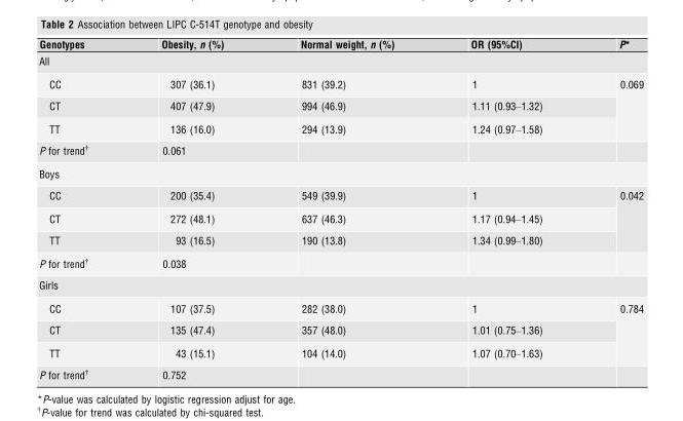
<table><thead><tr><td>Genotypes</td><td>Obesity, n (%)</td><td>Normal weight, n (%)</td><td>OR (95%CI)</td><td>P*</td></tr></thead><tbody><tr><td colspan="5">All</td></tr><tr><td>CC</td><td>307 (36.1)</td><td>831 (39.2)</td><td>1</td><td rowspan="3">0.069</td></tr><tr><td>CT</td><td>407 (47.9)</td><td>994 (46.9)</td><td>1.11 (0.93–1.32)</td></tr><tr><td>TT</td><td>136 (16.0)</td><td>294 (13.9)</td><td>1.24 (0.97–1.58)</td></tr><tr><td>P for trend†</td><td>0.061</td><td></td><td></td><td></td></tr><tr><td colspan="5">Boys</td></tr><tr><td>CC</td><td>200 (35.4)</td><td>549 (39.9)</td><td>1</td><td rowspan="3">0.042</td></tr><tr><td>CT</td><td>272 (48.1)</td><td>637 (46.3)</td><td>1.17 (0.94–1.45)</td></tr><tr><td>TT</td><td>93 (16.5)</td><td>190 (13.8)</td><td>1.34 (0.99–1.80)</td></tr><tr><td>P for trend†</td><td>0.038</td><td></td><td></td><td></td></tr><tr><td colspan="5">Girls</td></tr><tr><td>CC</td><td>107 (37.5)</td><td>282 (38.0)</td><td>1</td><td rowspan="3">0.784</td></tr><tr><td>CT</td><td>135 (47.4)</td><td>357 (48.0)</td><td>1.01 (0.75–1.36)</td></tr><tr><td>TT</td><td>43 (15.1)</td><td>104 (14.0)</td><td>1.07 (0.70–1.63)</td></tr><tr><td>P for trend†</td><td>0.752</td><td></td><td></td><td></td></tr></tbody></table>